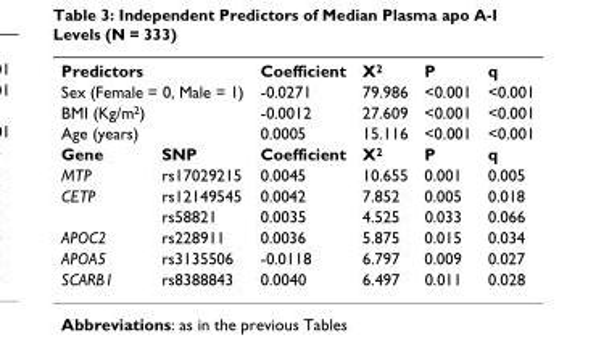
<table><tbody><tr><td>Predictors</td><td></td><td>Coefficient</td><td>X<sup>2</sup></td><td>P</td><td>q</td></tr><tr><td colspan="2">Sex (Female = 0, Male = 1)</td><td>-0.0271</td><td>79.986</td><td>&lt;0.001</td><td>&lt;0.001</td></tr><tr><td colspan="2">BMI (Kg/m<sup>2</sup>)</td><td>-0.0012</td><td>27.609</td><td>&lt;0.001</td><td>&lt;0.001</td></tr><tr><td colspan="2">Age (years)</td><td>0.0005</td><td>15.116</td><td>&lt;0.001</td><td>&lt;0.001</td></tr><tr><td>Gene</td><td>SNP</td><td>Coefficient</td><td>X<sup>2</sup></td><td>P</td><td>q</td></tr><tr><td>MTP</td><td>rs17029215</td><td>0.0045</td><td>10.655</td><td>0.001</td><td>0.005</td></tr><tr><td rowspan="2">CETP</td><td>rs12149545</td><td>0.0042</td><td>7.852</td><td>0.005</td><td>0.018</td></tr><tr><td>rs58821</td><td>0.0035</td><td>4.525</td><td>0.033</td><td>0.066</td></tr><tr><td>APOC2</td><td>rs228911</td><td>0.0036</td><td>5.875</td><td>0.015</td><td>0.034</td></tr><tr><td>APOA5</td><td>rs3135506</td><td>-0.0118</td><td>6.797</td><td>0.009</td><td>0.027</td></tr><tr><td>SCARB1</td><td>rs8388843</td><td>0.0040</td><td>6.497</td><td>0.011</td><td>0.028</td></tr></tbody></table>